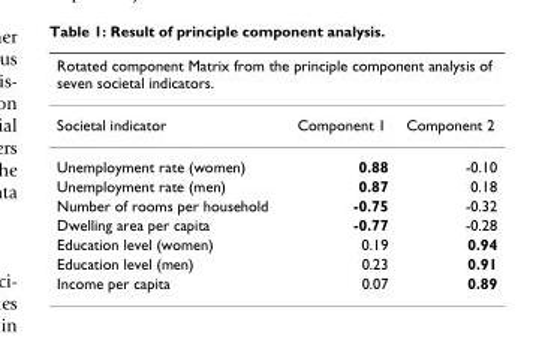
<table><thead><tr><td colspan="3">Rotated component Matrix from the principle component analysis of seven societal indicators.</td></tr><tr><td>Societal indicator</td><td>Component 1</td><td>Component 2</td></tr></thead><tbody><tr><td>Unemployment rate (women)</td><td>0.88</td><td>-0.10</td></tr><tr><td>Unemployment rate (men)</td><td>0.87</td><td>0.18</td></tr><tr><td>Number of rooms per household</td><td>-0.75</td><td>-0.32</td></tr><tr><td>Dwelling area per capita</td><td>-0.77</td><td>-0.28</td></tr><tr><td>Education level (women)</td><td>0.19</td><td>0.94</td></tr><tr><td>Education level (men)</td><td>0.23</td><td>0.91</td></tr><tr><td>Income per capita</td><td>0.07</td><td>0.89</td></tr></tbody></table>